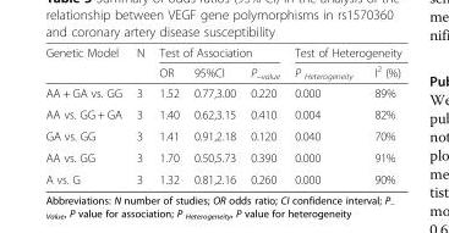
<table><thead><tr><td rowspan="2">Genetic Model</td><td rowspan="2">N</td><td colspan="3">Test of Association</td><td colspan="2">Test of Heterogeneity</td></tr><tr><td>OR</td><td>95%CI</td><td>P<sub>–value</sub></td><td>P <sub>Heterogeneity</sub></td><td>I<sup>2</sup> (%)</td></tr></thead><tbody><tr><td>AA + GA vs. GG</td><td>3</td><td>1.52</td><td>0.77,3.00</td><td>0.220</td><td>0.000</td><td>89%</td></tr><tr><td>AA vs. GG + GA</td><td>3</td><td>1.40</td><td>0.62,3.15</td><td>0.410</td><td>0.004</td><td>82%</td></tr><tr><td>GA vs. GG</td><td>3</td><td>1.41</td><td>0.91,2.18</td><td>0.120</td><td>0.040</td><td>70%</td></tr><tr><td>AA vs. GG</td><td>3</td><td>1.70</td><td>0.50,5.73</td><td>0.390</td><td>0.000</td><td>91%</td></tr><tr><td>A vs. G</td><td>3</td><td>1.32</td><td>0.81,2.16</td><td>0.260</td><td>0.000</td><td>90%</td></tr></tbody></table>